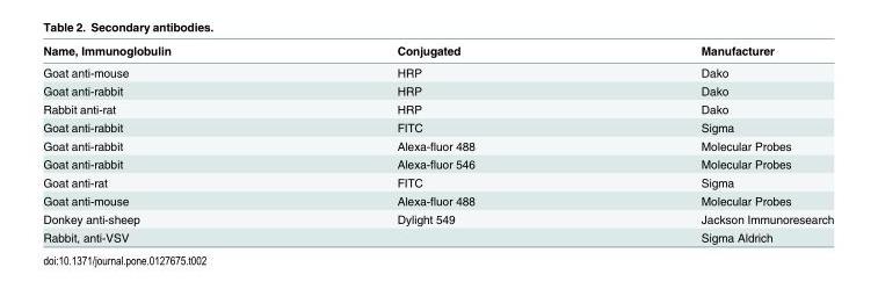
<table><thead><tr><td>Name, Immunoglobulin</td><td>Conjugated</td><td>Manufacturer</td></tr></thead><tbody><tr><td>Goat anti-mouse</td><td>HRP</td><td>Dako</td></tr><tr><td>Goat anti-rabbit</td><td>HRP</td><td>Dako</td></tr><tr><td>Rabbit anti-rat</td><td>HRP</td><td>Dako</td></tr><tr><td>Goat anti-rabbit</td><td>FITC</td><td>Sigma</td></tr><tr><td>Goat anti-rabbit</td><td>Alexa-fluor 488</td><td>Molecular Probes</td></tr><tr><td>Goat anti-rabbit</td><td>Alexa-fluor 546</td><td>Molecular Probes</td></tr><tr><td>Goat anti-rat</td><td>FITC</td><td>Sigma</td></tr><tr><td>Goat anti-mouse</td><td>Alexa-fluor 488</td><td>Molecular Probes</td></tr><tr><td>Donkey anti-sheep</td><td>Dylight 549</td><td>Jackson Immunoresearch</td></tr><tr><td>Rabbit, anti-VSV</td><td></td><td>Sigma Aldrich</td></tr></tbody></table>